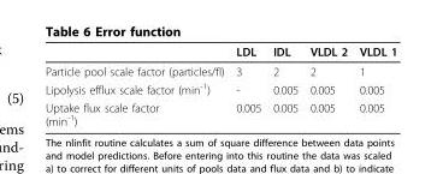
<table><thead><tr><td></td><td>LDL</td><td>IDL</td><td>VLDL 2</td><td>VLDL 1</td></tr></thead><tbody><tr><td>Particle pool scale factor (particles/fl)</td><td>3</td><td>2</td><td>2</td><td>1</td></tr><tr><td>Lipolysis efflux scale factor (min<sup>-1</sup>)</td><td>-</td><td>0.005</td><td>0.005</td><td>0.005</td></tr><tr><td>Uptake flux scale factor (min<sup>-1</sup>)</td><td>0.005</td><td>0.005</td><td>0.005</td><td>0.005</td></tr></tbody></table>